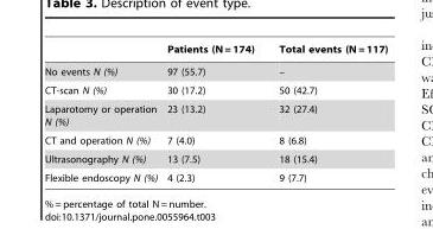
<table><thead><tr><td></td><td>Patients (N = 174)</td><td>Total events (N = 117)</td></tr></thead><tbody><tr><td>No events N (%)</td><td>97 (55.7)</td><td>–</td></tr><tr><td>CT-scan N (%)</td><td>30 (17.2)</td><td>50 (42.7)</td></tr><tr><td>Laparotomy or operation N (%)</td><td>23 (13.2)</td><td>32 (27.4)</td></tr><tr><td>CT and operation N (%)</td><td>7 (4.0)</td><td>8 (6.8)</td></tr><tr><td>Ultrasonography N (%)</td><td>13 (7.5)</td><td>18 (15.4)</td></tr><tr><td>Flexible endoscopy N (%)</td><td>4 (2.3)</td><td>9 (7.7)</td></tr></tbody></table>